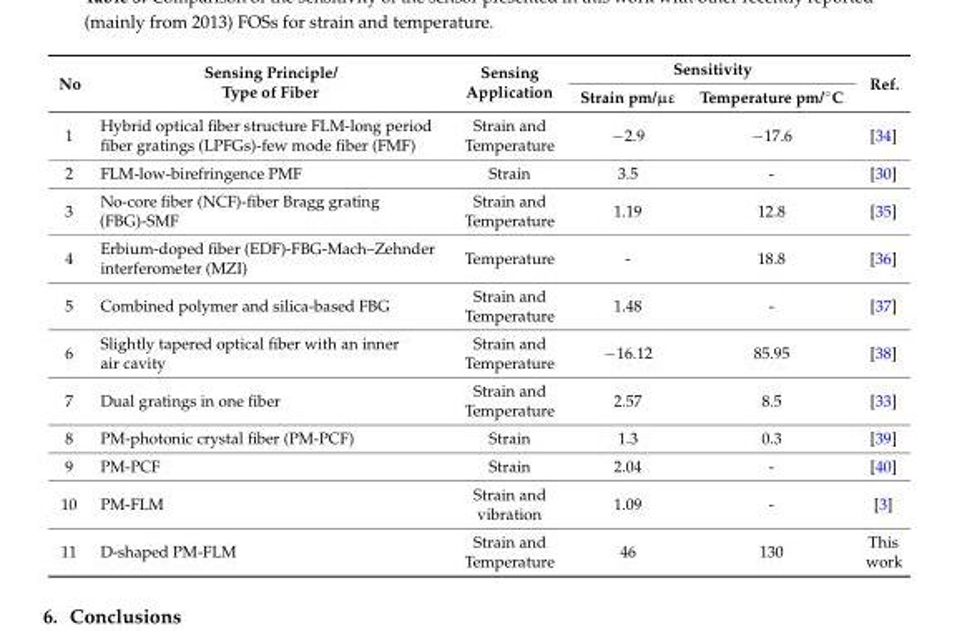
<table><thead><tr><td rowspan="2">No</td><td rowspan="2">Sensing Principle/ Type of Fiber</td><td rowspan="2">Sensing Application</td><td colspan="2">Sensitivity</td><td rowspan="2">Ref.</td></tr><tr><td>Strain pm/µε</td><td>Temperature pm/◦C</td></tr></thead><tbody><tr><td>1</td><td>Hybrid optical fiber structure FLM-long period fiber gratings (LPFGs)-few mode fiber (FMF)</td><td>Strain and Temperature</td><td>−2.9</td><td>−17.6</td><td>[34]</td></tr><tr><td>2</td><td>FLM-low-birefringence PMF</td><td>Strain</td><td>3.5</td><td>-</td><td>[30]</td></tr><tr><td>3</td><td>No-core fiber (NCF)-fiber Bragg grating (FBG)-SMF</td><td>Strain and Temperature</td><td>1.19</td><td>12.8</td><td>[35]</td></tr><tr><td>4</td><td>Erbium-doped fiber (EDF)-FBG-Mach–Zehnder interferometer (MZI)</td><td>Temperature</td><td>-</td><td>18.8</td><td>[36]</td></tr><tr><td>5</td><td>Combined polymer and silica-based FBG</td><td>Strain and Temperature</td><td>1.48</td><td>-</td><td>[37]</td></tr><tr><td>6</td><td>Slightly tapered optical fiber with an inner air cavity</td><td>Strain and Temperature</td><td>−16.12</td><td>85.95</td><td>[38]</td></tr><tr><td>7</td><td>Dual gratings in one fiber</td><td>Strain and Temperature</td><td>2.57</td><td>8.5</td><td>[33]</td></tr><tr><td>8</td><td>PM-photonic crystal fiber (PM-PCF)</td><td>Strain</td><td>1.3</td><td>0.3</td><td>[39]</td></tr><tr><td>9</td><td>PM-PCF</td><td>Strain</td><td>2.04</td><td>-</td><td>[40]</td></tr><tr><td>10</td><td>PM-FLM</td><td>Strain and vibration</td><td>1.09</td><td>-</td><td>[3]</td></tr><tr><td>11</td><td>D-shaped PM-FLM</td><td>Strain and Temperature</td><td>46</td><td>130</td><td>This work</td></tr></tbody></table>